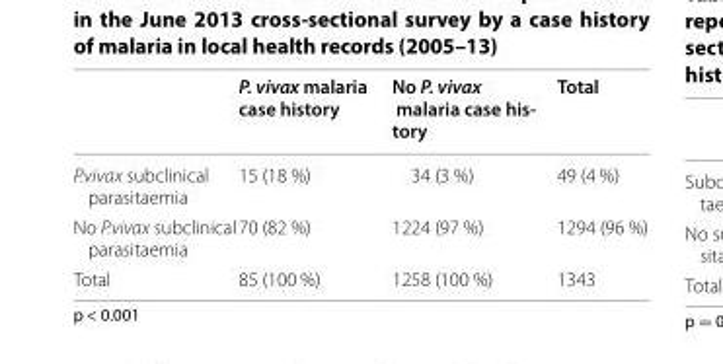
<table><thead><tr><td></td><td>P. vivax malaria case history</td><td>No P. vivax malaria case his‑ tory</td><td>Total</td></tr></thead><tbody><tr><td>P.vivax subclinical parasitaemia</td><td>15 (18 %)</td><td>34 (3 %)</td><td>49 (4 %)</td></tr><tr><td>No P.vivax subclinical parasitaemia</td><td>70 (82 %)</td><td>1224 (97 %)</td><td>1294 (96 %)</td></tr><tr><td>Total</td><td>85 (100 %)</td><td>1258 (100 %)</td><td>1343</td></tr></tbody></table>